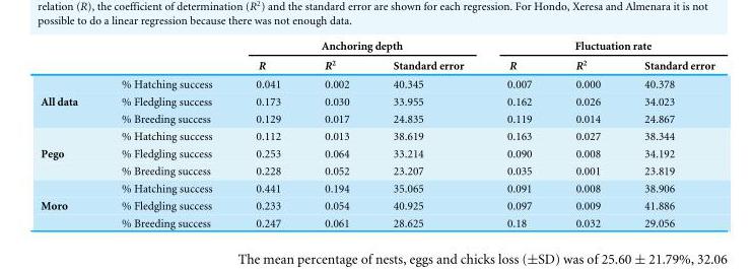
<table><thead><tr><td rowspan="2"></td><td rowspan="2"></td><td colspan="3">Anchoring depth</td><td colspan="3">Fluctuation rate</td></tr><tr><td>R</td><td>R<sup>2</sup></td><td>Standard error</td><td>R</td><td>R<sup>2</sup></td><td>Standard error</td></tr></thead><tbody><tr><td>;</td><td>% Hatching success</td><td>0.041</td><td>0.002</td><td>40.345</td><td>0.007</td><td>0.000</td><td>40.378</td></tr><tr><td rowspan="3">;All data ; ;</td><td>% Fledgling success</td><td>0.173</td><td>0.030</td><td>33.955</td><td>0.162</td><td>0.026</td><td>34.023</td></tr><tr><td>% Breeding success</td><td>0.129</td><td>0.017</td><td>24.835</td><td>0.119</td><td>0.014</td><td>24.867</td></tr><tr><td>% Hatching success</td><td>0.112</td><td>0.013</td><td>38.619</td><td>0.163</td><td>0.027</td><td>38.344</td></tr><tr><td rowspan="3">;Pego ; ;</td><td>% Fledgling success</td><td>0.253</td><td>0.064</td><td>33.214</td><td>0.090</td><td>0.008</td><td>34.192</td></tr><tr><td>% Breeding success</td><td>0.228</td><td>0.052</td><td>23.207</td><td>0.035</td><td>0.001</td><td>23.819</td></tr><tr><td>% Hatching success</td><td>0.441</td><td>0.194</td><td>35.065</td><td>0.091</td><td>0.008</td><td>38.906</td></tr><tr><td rowspan="2">;Moro ;</td><td>% Fledgling success</td><td>0.233</td><td>0.054</td><td>40.925</td><td>0.097</td><td>0.009</td><td>41.886</td></tr><tr><td>% Breeding success</td><td>0.247</td><td>0.061</td><td>28.625</td><td>0.18</td><td>0.032</td><td>29.056</td></tr></tbody></table>